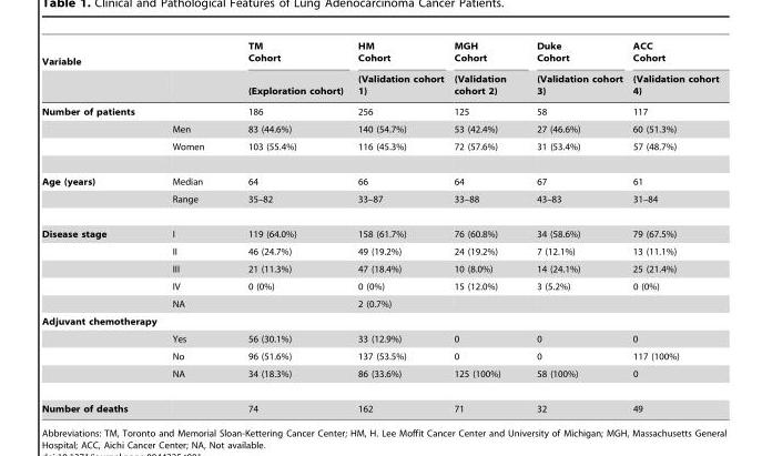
<table><thead><tr><td rowspan="2">Variable</td><td rowspan="2"></td><td rowspan="2">TM Cohort (Exploration cohort)</td><td rowspan="2">HM Cohort (Validation cohort 1)</td><td rowspan="2">MGH Cohort (Validation cohort 2)</td><td rowspan="2">Duke Cohort (Validation cohort 3)</td><td rowspan="2">ACC Cohort (Validation cohort 4)</td></tr><tr></tr></thead><tbody><tr><td rowspan="3">Number of patients</td><td></td><td>186</td><td>256</td><td>125</td><td>58</td><td>117</td></tr><tr><td>Men</td><td>83 (44.6%)</td><td>140 (54.7%)</td><td>53 (42.4%)</td><td>27 (46.6%)</td><td>60 (51.3%)</td></tr><tr><td>Women</td><td>103 (55.4%)</td><td>116 (45.3%)</td><td>72 (57.6%)</td><td>31 (53.4%)</td><td>57 (48.7%)</td></tr><tr><td rowspan="2">Age (years)</td><td>Median</td><td>64</td><td>66</td><td>64</td><td>67</td><td>61</td></tr><tr><td>Range</td><td>35–82</td><td>33–87</td><td>33–88</td><td>43–83</td><td>31–84</td></tr><tr><td rowspan="5">Disease stage</td><td>I</td><td>119 (64.0%)</td><td>158 (61.7%)</td><td>76 (60.8%)</td><td>34 (58.6%)</td><td>79 (67.5%)</td></tr><tr><td>II</td><td>46 (24.7%)</td><td>49 (19.2%)</td><td>24 (19.2%)</td><td>7 (12.1%)</td><td>13 (11.1%)</td></tr><tr><td>III</td><td>21 (11.3%)</td><td>47 (18.4%)</td><td>10 (8.0%)</td><td>14 (24.1%)</td><td>25 (21.4%)</td></tr><tr><td>IV</td><td>0 (0%)</td><td>0 (0%)</td><td>15 (12.0%)</td><td>3 (5.2%)</td><td>0 (0%)</td></tr><tr><td>NA</td><td></td><td>2 (0.7%)</td><td></td><td></td><td></td></tr><tr><td colspan="7">Adjuvant chemotherapy</td></tr><tr><td></td><td>Yes</td><td>56 (30.1%)</td><td>33 (12.9%)</td><td>0</td><td>0</td><td>0</td></tr><tr><td></td><td>No</td><td>96 (51.6%)</td><td>137 (53.5%)</td><td>0</td><td>0</td><td>117 (100%)</td></tr><tr><td></td><td>NA</td><td>34 (18.3%)</td><td>86 (33.6%)</td><td>125 (100%)</td><td>58 (100%)</td><td>0</td></tr><tr><td>Number of deaths</td><td></td><td>74</td><td>162</td><td>71</td><td>32</td><td>49</td></tr></tbody></table>